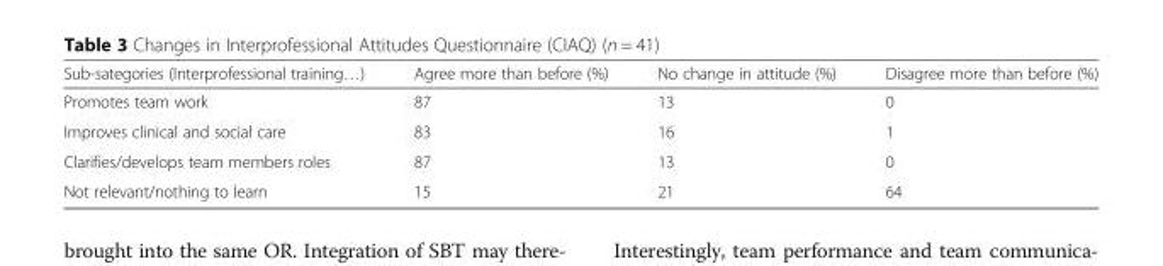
<table><thead><tr><td>Sub-sategories (Interprofessional training…)</td><td>Agree more than before (%)</td><td>No change in attitude (%)</td><td>Disagree more than before (%)</td></tr></thead><tbody><tr><td>Promotes team work</td><td>87</td><td>13</td><td>0</td></tr><tr><td>Improves clinical and social care</td><td>83</td><td>16</td><td>1</td></tr><tr><td>Clarifies/develops team members roles</td><td>87</td><td>13</td><td>0</td></tr><tr><td>Not relevant/nothing to learn</td><td>15</td><td>21</td><td>64</td></tr></tbody></table>